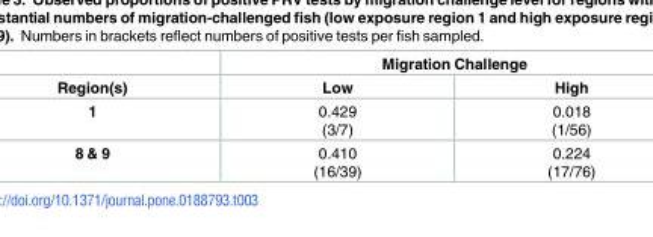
<table><thead><tr><td rowspan="2">Region(s)</td><td colspan="2">Migration Challenge</td></tr><tr><td>Low</td><td>High</td></tr></thead><tbody><tr><td>1</td><td>0.429 (3/7)</td><td>0.018 (1/56)</td></tr><tr><td>8 &amp; 9</td><td>0.410 (16/39)</td><td>0.224 (17/76)</td></tr></tbody></table>